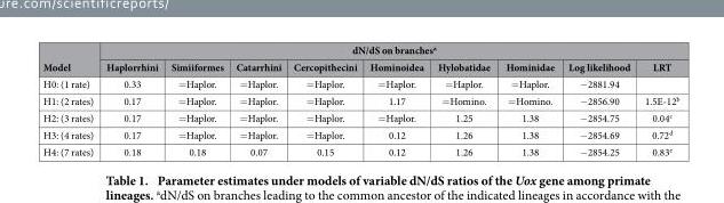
<table><thead><tr><td rowspan="2">Model</td><td colspan="9">dN/dS on branches<sup>a</sup></td></tr><tr><td>Haplorrhini</td><td>Simiiformes</td><td>Catarrhini</td><td>Cercopithecini</td><td>Hominoidea</td><td>Hylobatidae</td><td>Hominidae</td><td>Log likelihood</td><td>LRT</td></tr></thead><tbody><tr><td>H0: (1 rate)</td><td>0.33</td><td>= Haplor.</td><td>= Haplor.</td><td>= Haplor.</td><td>= Haplor.</td><td>= Haplor.</td><td>= Haplor.</td><td>− 2881.94</td><td></td></tr><tr><td>H1: (2 rates)</td><td>0.17</td><td>= Haplor.</td><td>= Haplor.</td><td>= Haplor.</td><td>1.17</td><td>= Homino.</td><td>= Homino.</td><td>− 2856.90</td><td>1.5E-12<sup>b</sup></td></tr><tr><td>H2: (3 rates)</td><td>0.17</td><td>= Haplor.</td><td>= Haplor.</td><td>= Haplor.</td><td>= Haplor.</td><td>1.25</td><td>1.38</td><td>− 2854.75</td><td>0.04<sup>c</sup></td></tr><tr><td>H3: (4 rates)</td><td>0.17</td><td>= Haplor.</td><td>= Haplor.</td><td>= Haplor.</td><td>0.12</td><td>1.26</td><td>1.38</td><td>− 2854.69</td><td>0.72<sup>d</sup></td></tr><tr><td>H4: (7 rates)</td><td>0.18</td><td>0.18</td><td>0.07</td><td>0.15</td><td>0.12</td><td>1.26</td><td>1.38</td><td>− 2854.25</td><td>0.83<sup>e</sup></td></tr></tbody></table>